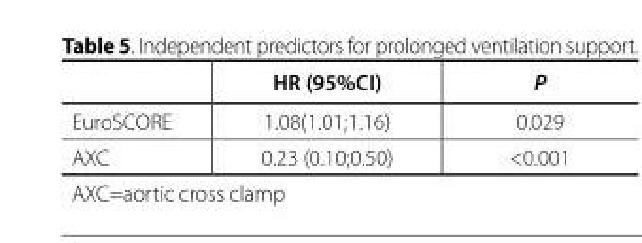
<table><thead><tr><td></td><td>HR (95%CI)</td><td>P</td></tr></thead><tbody><tr><td>EuroSCORE</td><td>1.08(1.01;1.16)</td><td>0.029</td></tr><tr><td>AXC</td><td>0.23 (0.10;0.50)</td><td>&lt;0.001</td></tr></tbody></table>